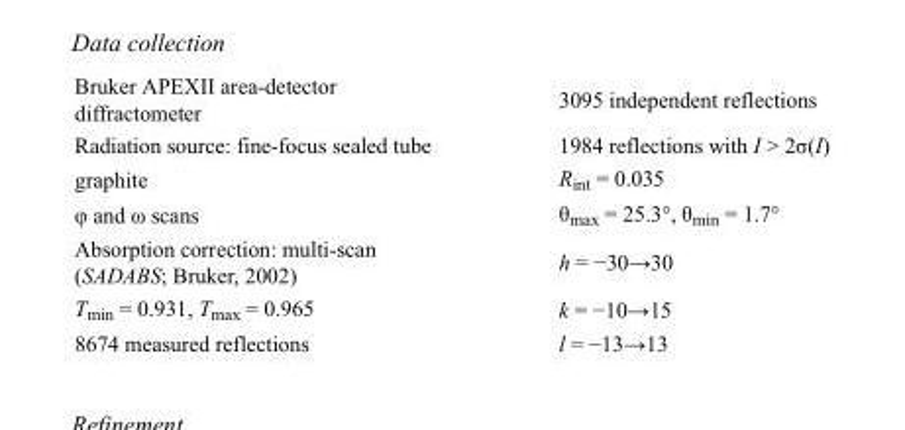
<table><tbody><tr><td>Bruker APEXII area-detector diffractometer</td><td>3095 independent reflections</td></tr><tr><td>Radiation source: fine-focus sealed tube</td><td>1984 reflections with I &gt; 2σ(I)</td></tr><tr><td>graphite</td><td>R<sub>int</sub> = 0.035</td></tr><tr><td>φ and ω scans</td><td>θ<sub>max</sub> = 25.3°, θ<sub>min</sub> = 1.7°</td></tr><tr><td>Absorption correction: multi-scan (SADABS; Bruker, 2002)</td><td>h = −30→30</td></tr><tr><td>T<sub>min</sub> = 0.931, T<sub>max</sub> = 0.965</td><td>k = −10→15</td></tr><tr><td>8674 measured reflections</td><td>l = −13→13</td></tr></tbody></table>